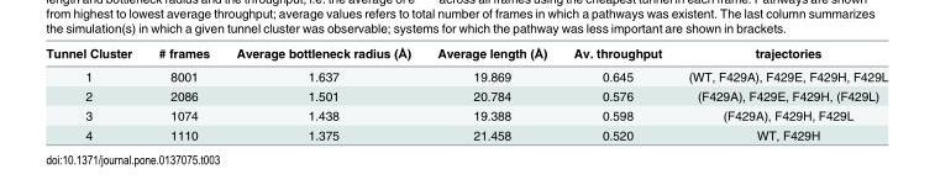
<table><thead><tr><td>Tunnel Cluster</td><td># frames</td><td>Average bottleneck radius (Å)</td><td>Average length (Å)</td><td>Av. throughput</td><td>trajectories</td></tr></thead><tbody><tr><td>1</td><td>8001</td><td>1.637</td><td>19.869</td><td>0.645</td><td>(WT, F429A), F429E, F429H, F429L</td></tr><tr><td>2</td><td>2086</td><td>1.501</td><td>20.784</td><td>0.576</td><td>(F429A), F429E, F429H, (F429L)</td></tr><tr><td>3</td><td>1074</td><td>1.438</td><td>19.388</td><td>0.598</td><td>(F429A), F429H, F429L</td></tr><tr><td>4</td><td>1110</td><td>1.375</td><td>21.458</td><td>0.520</td><td>WT, F429H</td></tr></tbody></table>